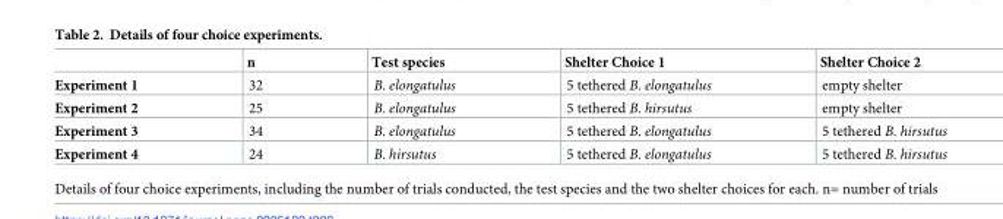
<table><thead><tr><td></td><td>n</td><td>Test species</td><td>Shelter Choice 1</td><td>Shelter Choice 2</td></tr></thead><tbody><tr><td>Experiment 1</td><td>32</td><td>B. elongatulus</td><td>5 tethered B. elongatulus</td><td>empty shelter</td></tr><tr><td>Experiment 2</td><td>25</td><td>B. elongatulus</td><td>5 tethered B. hirsutus</td><td>empty shelter</td></tr><tr><td>Experiment 3</td><td>34</td><td>B. elongatulus</td><td>5 tethered B. elongatulus</td><td>5 tethered B. hirsutus</td></tr><tr><td>Experiment 4</td><td>24</td><td>B. hirsutus</td><td>5 tethered B. elongatulus</td><td>5 tethered B. hirsutus</td></tr></tbody></table>